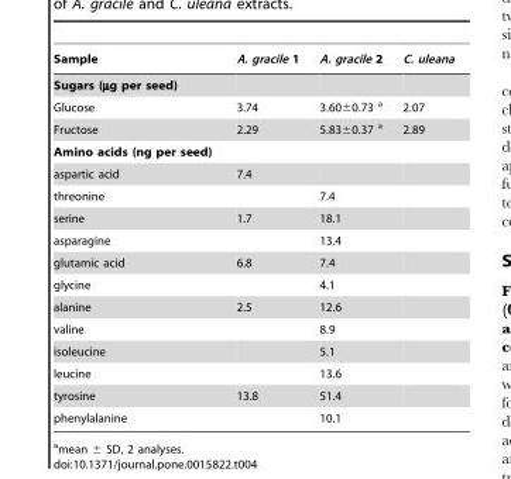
<table><thead><tr><td>Sample</td><td>A. gracile 1</td><td>A. gracile 2</td><td>C. uleana</td></tr></thead><tbody><tr><td colspan="4">Sugars (µg per seed)</td></tr><tr><td>Glucose</td><td>3.74</td><td>3.60±0.73 a</td><td>2.07</td></tr><tr><td>Fructose</td><td>2.29</td><td>5.83±0.37 a</td><td>2.89</td></tr><tr><td colspan="4">Amino acids (ng per seed)</td></tr><tr><td>aspartic acid</td><td>7.4</td><td></td><td></td></tr><tr><td>threonine</td><td></td><td>7.4</td><td></td></tr><tr><td>serine</td><td>1.7</td><td>18.1</td><td></td></tr><tr><td>asparagine</td><td></td><td>13.4</td><td></td></tr><tr><td>glutamic acid</td><td>6.8</td><td>7.4</td><td></td></tr><tr><td>glycine</td><td></td><td>4.1</td><td></td></tr><tr><td>alanine</td><td>2.5</td><td>12.6</td><td></td></tr><tr><td>valine</td><td></td><td>8.9</td><td></td></tr><tr><td>isoleucine</td><td></td><td>5.1</td><td></td></tr><tr><td>leucine</td><td></td><td>13.6</td><td></td></tr><tr><td>tyrosine</td><td>13.8</td><td>51.4</td><td></td></tr><tr><td>phenylalanine</td><td></td><td>10.1</td><td></td></tr></tbody></table>